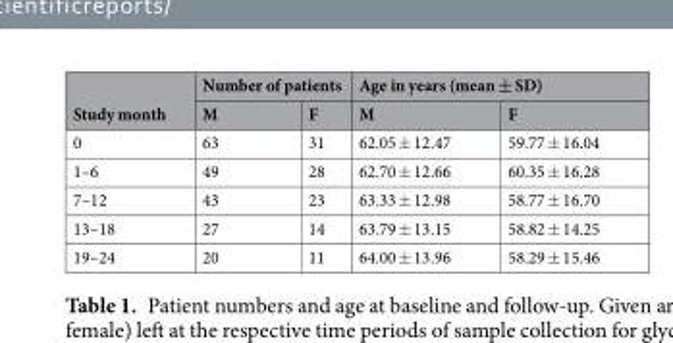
<table><thead><tr><td rowspan="2">Study month</td><td colspan="2">Number of patients</td><td colspan="2">Age in years (mean ± SD)</td></tr><tr><td>M</td><td>F</td><td>M</td><td>F</td></tr></thead><tbody><tr><td>0</td><td>63</td><td>31</td><td>62.05 ± 12.47</td><td>59.77 ± 16.04</td></tr><tr><td>1–6</td><td>49</td><td>28</td><td>62.70 ± 12.66</td><td>60.35 ± 16.28</td></tr><tr><td>7–12</td><td>43</td><td>23</td><td>63.33 ± 12.98</td><td>58.77 ± 16.70</td></tr><tr><td>13–18</td><td>27</td><td>14</td><td>63.79 ± 13.15</td><td>58.82 ± 14.25</td></tr><tr><td>19–24</td><td>20</td><td>11</td><td>64.00 ± 13.96</td><td>58.29 ± 15.46</td></tr></tbody></table>